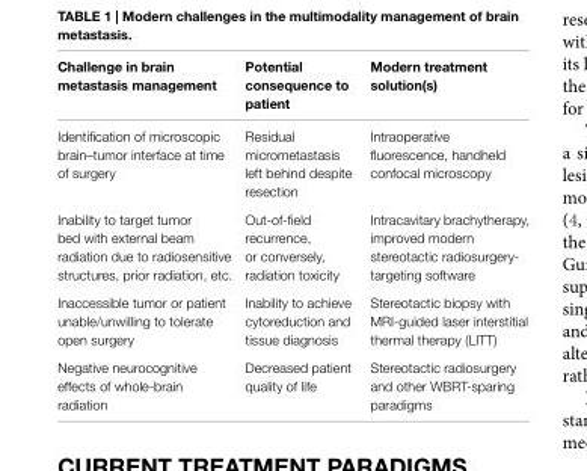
<table><thead><tr><td>Challenge in brain metastasis management</td><td>Potential consequence to patient</td><td>Modern treatment solution(s)</td></tr></thead><tbody><tr><td>Identification of microscopic brain–tumor interface at time of surgery</td><td>Residual micrometastasis left behind despite resection</td><td>Intraoperative fluorescence, handheld confocal microscopy</td></tr><tr><td>Inability to target tumor bed with external beam radiation due to radiosensitive structures, prior radiation, etc.</td><td>Out-of-field recurrence, or conversely, radiation toxicity</td><td>Intracavitary brachytherapy, improved modern stereotactic radiosurgery- targeting software</td></tr><tr><td>Inaccessible tumor or patient unable/unwilling to tolerate open surgery</td><td>Inability to achieve cytoreduction and tissue diagnosis</td><td>Stereotactic biopsy with MRI-guided laser interstitial thermal therapy (LITT)</td></tr><tr><td>Negative neurocognitive effects of whole-brain radiation</td><td>Decreased patient quality of life</td><td>Stereotactic radiosurgery and other WBRT-sparing paradigms</td></tr></tbody></table>